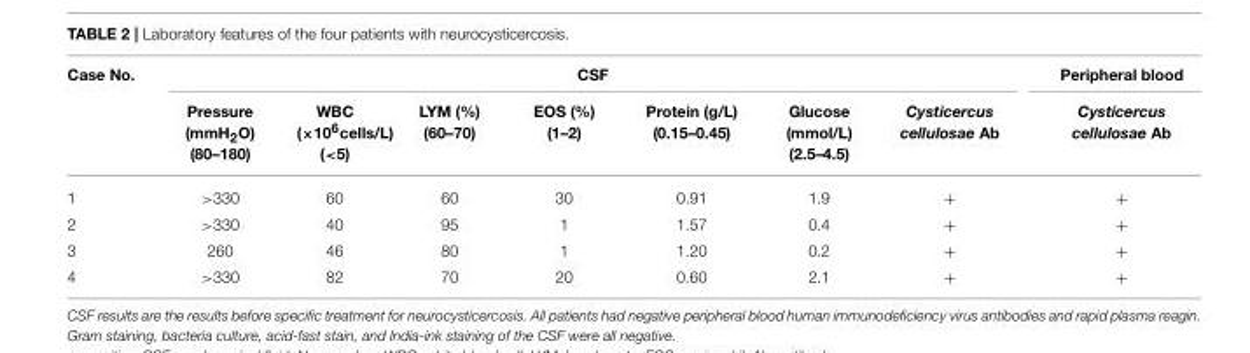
<table><thead><tr><td rowspan="2">Case No.</td><td colspan="7">CSF</td><td rowspan="2">Peripheral blood Cysticercus cellulosae Ab</td></tr><tr><td>Pressure (mmH<sub>2</sub>O) (80–180)</td><td>WBC (×10<sup>6</sup>cells/L) (&lt;5)</td><td>LYM (%) (60–70)</td><td>EOS (%) (1–2)</td><td>Protein (g/L) (0.15–0.45)</td><td>Glucose (mmol/L) (2.5–4.5)</td><td>Cysticercus cellulosae Ab</td></tr></thead><tbody><tr><td>1</td><td>&gt;330</td><td>60</td><td>60</td><td>30</td><td>0.91</td><td>1.9</td><td>+</td><td>+</td></tr><tr><td>2</td><td>&gt;330</td><td>40</td><td>95</td><td>1</td><td>1.57</td><td>0.4</td><td>+</td><td>+</td></tr><tr><td>3</td><td>260</td><td>46</td><td>80</td><td>1</td><td>1.20</td><td>0.2</td><td>+</td><td>+</td></tr><tr><td>4</td><td>&gt;330</td><td>82</td><td>70</td><td>20</td><td>0.60</td><td>2.1</td><td>+</td><td>+</td></tr></tbody></table>